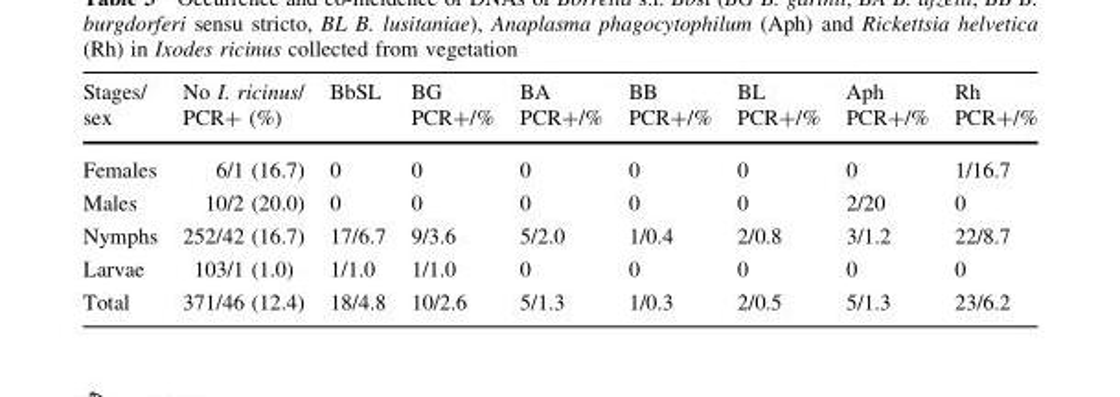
<table><thead><tr><td>Stages/ sex</td><td>No I. ricinus/ PCR+ (%)</td><td>BbSL</td><td>BG PCR+/%</td><td>BA PCR+/%</td><td>BB PCR+/%</td><td>BL PCR+/%</td><td>Aph PCR+/%</td><td>Rh PCR+/%</td></tr></thead><tbody><tr><td>Females</td><td>6/1 (16.7)</td><td>0</td><td>0</td><td>0</td><td>0</td><td>0</td><td>0</td><td>1/16.7</td></tr><tr><td>Males</td><td>10/2 (20.0)</td><td>0</td><td>0</td><td>0</td><td>0</td><td>0</td><td>2/20</td><td>0</td></tr><tr><td>Nymphs</td><td>252/42 (16.7)</td><td>17/6.7</td><td>9/3.6</td><td>5/2.0</td><td>1/0.4</td><td>2/0.8</td><td>3/1.2</td><td>22/8.7</td></tr><tr><td>Larvae</td><td>103/1 (1.0)</td><td>1/1.0</td><td>1/1.0</td><td>0</td><td>0</td><td>0</td><td>0</td><td>0</td></tr><tr><td>Total</td><td>371/46 (12.4)</td><td>18/4.8</td><td>10/2.6</td><td>5/1.3</td><td>1/0.3</td><td>2/0.5</td><td>5/1.3</td><td>23/6.2</td></tr></tbody></table>